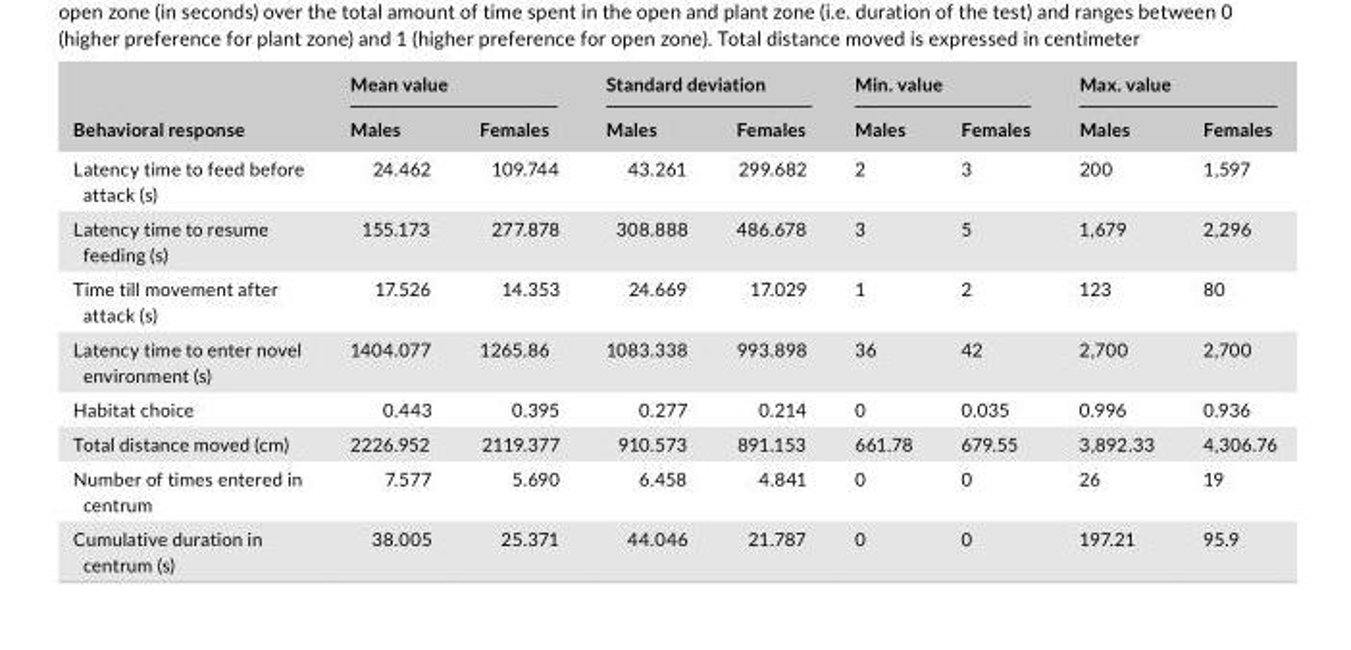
<table><thead><tr><td rowspan="2">Behavioral response</td><td colspan="2">Mean value</td><td colspan="2">Standard deviation</td><td colspan="2">Min. value</td><td colspan="2">Max. value</td></tr><tr><td>Males</td><td>Females</td><td>Males</td><td>Females</td><td>Males</td><td>Females</td><td>Males</td><td>Females</td></tr></thead><tbody><tr><td>Latency time to feed before attack (s)</td><td>24.462</td><td>109.744</td><td>43.261</td><td>299.682</td><td>2</td><td>3</td><td>200</td><td>1,597</td></tr><tr><td>Latency time to resume feeding (s)</td><td>155.173</td><td>277.878</td><td>308.888</td><td>486.678</td><td>3</td><td>5</td><td>1,679</td><td>2,296</td></tr><tr><td>Time till movement after attack (s)</td><td>17.526</td><td>14.353</td><td>24.669</td><td>17.029</td><td>1</td><td>2</td><td>123</td><td>80</td></tr><tr><td>Latency time to enter novel environment (s)</td><td>1404.077</td><td>1265.86</td><td>1083.338</td><td>993.898</td><td>36</td><td>42</td><td>2,700</td><td>2,700</td></tr><tr><td>Habitat choice</td><td>0.443</td><td>0.395</td><td>0.277</td><td>0.214</td><td>0</td><td>0.035</td><td>0.996</td><td>0.936</td></tr><tr><td>Total distance moved (cm)</td><td>2226.952</td><td>2119.377</td><td>910.573</td><td>891.153</td><td>661.78</td><td>679.55</td><td>3,892.33</td><td>4,306.76</td></tr><tr><td>Number of times entered in centrum</td><td>7.577</td><td>5.690</td><td>6.458</td><td>4.841</td><td>0</td><td>0</td><td>26</td><td>19</td></tr><tr><td>Cumulative duration in centrum (s)</td><td>38.005</td><td>25.371</td><td>44.046</td><td>21.787</td><td>0</td><td>0</td><td>197.21</td><td>95.9</td></tr></tbody></table>